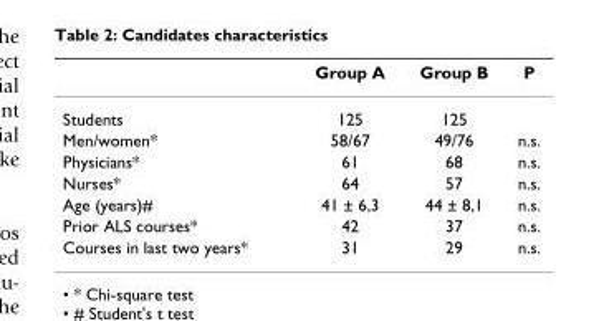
<table><thead><tr><td></td><td>Group A</td><td>Group B</td><td>P</td></tr></thead><tbody><tr><td>Students</td><td>125</td><td>125</td><td></td></tr><tr><td>Men/women*</td><td>58/67</td><td>49/76</td><td>n.s.</td></tr><tr><td>Physicians*</td><td>61</td><td>68</td><td>n.s.</td></tr><tr><td>Nurses*</td><td>64</td><td>57</td><td>n.s.</td></tr><tr><td>Age (years)#</td><td>41 ± 6,3</td><td>44 ± 8,1</td><td>n.s.</td></tr><tr><td>Prior ALS courses*</td><td>42</td><td>37</td><td>n.s.</td></tr><tr><td>Courses in last two years*</td><td>31</td><td>29</td><td>n.s.</td></tr></tbody></table>